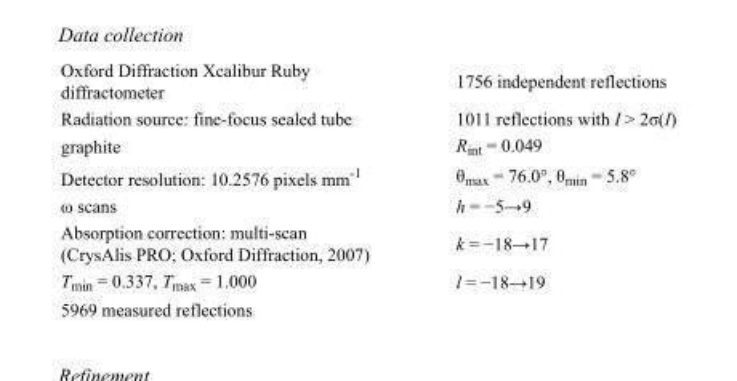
<table><tbody><tr><td>Oxford Diffraction Xcalibur Ruby diffractometer</td><td>1756 independent reflections</td></tr><tr><td>Radiation source: fine-focus sealed tube</td><td>1011 reflections with I &gt; 2σ(I)</td></tr><tr><td>graphite</td><td>R<sub>int</sub> = 0.049</td></tr><tr><td>Detector resolution: 10.2576 pixels mm<sup>-1</sup></td><td>θ<sub>max</sub> = 76.0°, θ<sub>min</sub> = 5.8°</td></tr><tr><td>ω scans</td><td>h = −5→9</td></tr><tr><td>Absorption correction: multi-scan (CrysAlis PRO; Oxford Diffraction, 2007)</td><td>k = −18→17</td></tr><tr><td>T<sub>min</sub> = 0.337, T<sub>max</sub> = 1.000</td><td>l = −18→19</td></tr><tr><td>5969 measured reflections</td><td></td></tr></tbody></table>